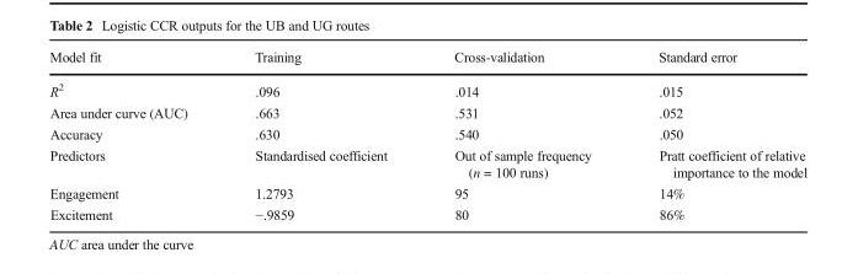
<table><thead><tr><td>Model fit</td><td>Training</td><td>Cross-validation</td><td>Standard error</td></tr></thead><tbody><tr><td>R<sup>2</sup></td><td>.096</td><td>.014</td><td>.015</td></tr><tr><td>Area under curve (AUC)</td><td>.663</td><td>.531</td><td>.052</td></tr><tr><td>Accuracy</td><td>.630</td><td>.540</td><td>.050</td></tr><tr><td>Predictors</td><td>Standardised coefficient</td><td>Out of sample frequency (n = 100 runs)</td><td>Pratt coefficient of relative importance to the model</td></tr><tr><td>Engagement</td><td>1.2793</td><td>95</td><td>14%</td></tr><tr><td>Excitement</td><td>−.9859</td><td>80</td><td>86%</td></tr></tbody></table>